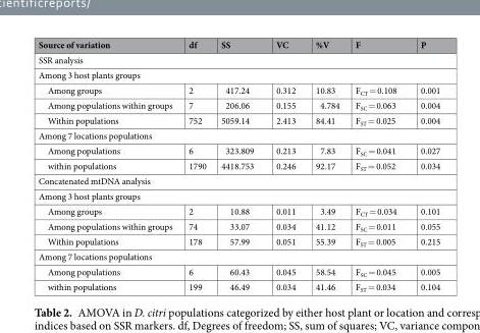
<table><thead><tr><td>Source of variation</td><td>df</td><td>SS</td><td>VC</td><td>%V</td><td>F</td><td>P</td></tr></thead><tbody><tr><td colspan="7">SSR analysis</td></tr><tr><td colspan="7">Among 3 host plants groups</td></tr><tr><td>Among groups</td><td>2</td><td>417.24</td><td>0.312</td><td>10.83</td><td>F<sub>CT</sub> = 0.108</td><td>0.001</td></tr><tr><td>Among populations within groups</td><td>7</td><td>206.06</td><td>0.155</td><td>4.784</td><td>F<sub>SC</sub> = 0.063</td><td>0.004</td></tr><tr><td>Within populations</td><td>752</td><td>5059.14</td><td>2.413</td><td>84.41</td><td>F<sub>ST</sub> = 0.025</td><td>0.004</td></tr><tr><td colspan="7">Among 7 locations populations</td></tr><tr><td>Among populations</td><td>6</td><td>323.809</td><td>0.213</td><td>7.83</td><td>F<sub>SC</sub> = 0.041</td><td>0.027</td></tr><tr><td>within populations</td><td>1790</td><td>4418.753</td><td>0.246</td><td>92.17</td><td>F<sub>ST</sub> = 0.052</td><td>0.034</td></tr><tr><td colspan="7">Concatenated mtDNA analysis</td></tr><tr><td colspan="7">Among 3 host plants groups</td></tr><tr><td>Among groups</td><td>2</td><td>10.88</td><td>0.011</td><td>3.49</td><td>F<sub>CT</sub> = 0.034</td><td>0.101</td></tr><tr><td>Among populations within groups</td><td>74</td><td>33.07</td><td>0.034</td><td>41.12</td><td>F<sub>SC</sub> = 0.011</td><td>0.055</td></tr><tr><td>Within populations</td><td>178</td><td>57.99</td><td>0.051</td><td>55.39</td><td>F<sub>ST</sub> = 0.005</td><td>0.215</td></tr><tr><td colspan="7">Among 7 locations populations</td></tr><tr><td>Among populations</td><td>6</td><td>60.43</td><td>0.045</td><td>58.54</td><td>F<sub>SC</sub> = 0.045</td><td>0.005</td></tr><tr><td>within populations</td><td>199</td><td>46.49</td><td>0.034</td><td>41.46</td><td>F<sub>ST</sub> = 0.034</td><td>0.104</td></tr></tbody></table>